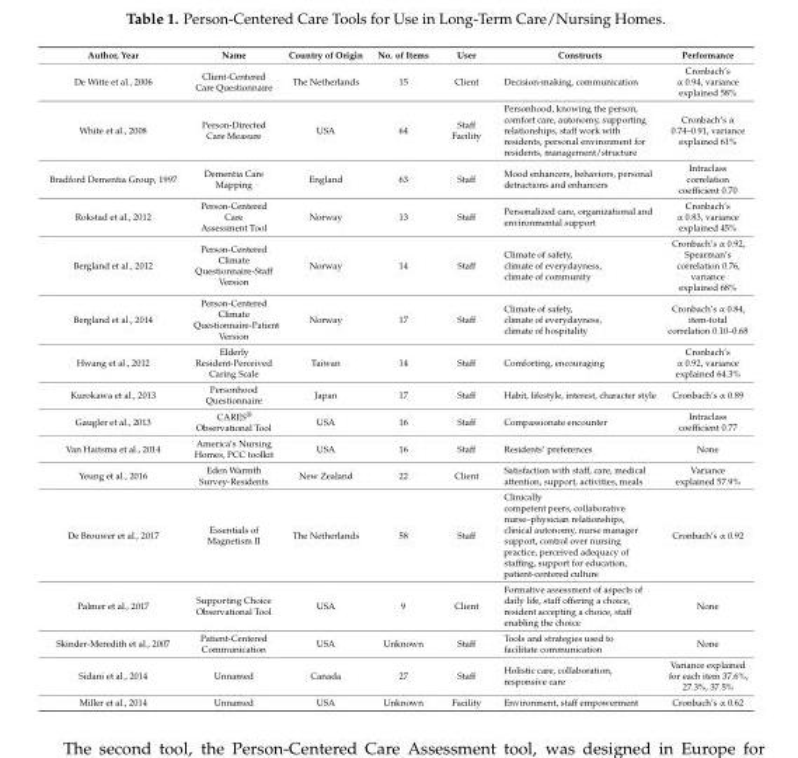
<table><thead><tr><td>Author, Year</td><td>Name</td><td>Country of Origin</td><td>No. of Items</td><td>User</td><td>Constructs</td><td>Performance</td></tr></thead><tbody><tr><td>De Witte et al., 2006</td><td>Client-Centered Care Questionnaire</td><td>The Netherlands</td><td>15</td><td>Client</td><td>Decision-making, communication</td><td>Cronbach’s α 0.94, variance explained 58%</td></tr><tr><td>White et al., 2008</td><td>Person-Directed Care Measure</td><td>USA</td><td>64</td><td>Staff Facility</td><td>Personhood, knowing the person, comfort care, autonomy, supporting relationships, staff work with residents, personal environment for residents, management/structure</td><td>Cronbach’s α 0.74–0.91, variance explained 61%</td></tr><tr><td>Bradford Dementia Group, 1997</td><td>Dementia Care Mapping</td><td>England</td><td>63</td><td>Staff</td><td>Mood enhancers, behaviors, personal detractions and enhancers</td><td>Intraclass correlation coefficient 0.70</td></tr><tr><td>Rokstad et al., 2012</td><td>Person-Centered Care Assessment Tool</td><td>Norway</td><td>13</td><td>Staff</td><td>Personalized care, organizational and environmental support</td><td>Cronbach’s α 0.83, variance explained 45%</td></tr><tr><td>Bergland et al., 2012</td><td>Person-Centered Climate Questionnaire-Staff Version</td><td>Norway</td><td>14</td><td>Staff</td><td>Climate of safety, climate of everydayness, climate of community</td><td>Cronbach’s α 0.92, Spearman’s correlation 0.76, variance explained 68%</td></tr><tr><td>Bergland et al., 2014</td><td>Person-Centered Climate Questionnaire-Patient Version</td><td>Norway</td><td>17</td><td>Staff</td><td>Climate of safety, climate of everydayness, climate of hospitality</td><td>Cronbach’s α 0.84, item-total correlation 0.10–0.68</td></tr><tr><td>Hwang et al., 2012</td><td>Elderly Resident-Perceived Caring Scale</td><td>Taiwan</td><td>14</td><td>Staff</td><td>Comforting, encouraging</td><td>Cronbach’s α 0.92, variance explained 64.3%</td></tr><tr><td>Kurokawa et al., 2013</td><td>Personhood Questionnaire</td><td>Japan</td><td>17</td><td>Staff</td><td>Habit, lifestyle, interest, character style</td><td>Cronbach’s α 0.89</td></tr><tr><td>Gaugler et al., 2013</td><td>CARES<sup>®</sup> Observational Tool</td><td>USA</td><td>16</td><td>Staff</td><td>Compassionate encounter</td><td>Intraclass coefficient 0.77</td></tr><tr><td>Van Haitsma et al., 2014</td><td>America’s Nursing Homes, PCC toolkit</td><td>USA</td><td>16</td><td>Staff</td><td>Residents’ preferences</td><td>None</td></tr><tr><td>Yeung et al., 2016</td><td>Eden Warmth Survey-Residents</td><td>New Zealand</td><td>22</td><td>Client</td><td>Satisfaction with staff, care, medical attention, support, activities, meals</td><td>Variance explained 57.9%</td></tr><tr><td>De Brouwer et al., 2017</td><td>Essentials of Magnetism II</td><td>The Netherlands</td><td>58</td><td>Staff</td><td>Clinically competent peers, collaborative nurse–physician relationships, clinical autonomy, nurse manager support, control over nursing practice, perceived adequacy of staffing, support for education, patient-centered culture</td><td>Cronbach’s α 0.92</td></tr><tr><td>Palmer et al., 2017</td><td>Supporting Choice Observational Tool</td><td>USA</td><td>9</td><td>Client</td><td>Formative assessment of aspects of daily life, staff offering a choice, resident accepting a choice, staff enabling the choice</td><td>None</td></tr><tr><td>Skinder-Meredith et al., 2007</td><td>Patient-Centered Communication</td><td>USA</td><td>Unknown</td><td>Staff</td><td>Tools and strategies used to facilitate communication</td><td>None</td></tr><tr><td>Sidani et al., 2014</td><td>Unnamed</td><td>Canada</td><td>27</td><td>Staff</td><td>Holistic care, collaboration, responsive care</td><td>Variance explained for each item 37.6%, 27.3%, 37.5%</td></tr><tr><td>Miller et al., 2014</td><td>Unnamed</td><td>USA</td><td>Unknown</td><td>Facility</td><td>Environment, staff empowerment</td><td>Cronbach’s α 0.62</td></tr></tbody></table>